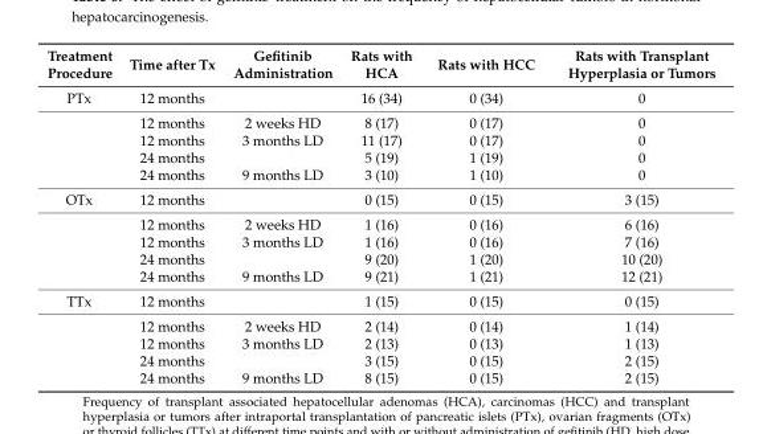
<table><thead><tr><td>Treatment Procedure</td><td>Time after Tx</td><td>Gefitinib Administration</td><td>Rats with HCA</td><td>Rats with HCC</td><td>Rats with Transplant Hyperplasia or Tumors</td></tr></thead><tbody><tr><td rowspan="5">PTx</td><td>12 months</td><td></td><td>16 (34)</td><td>0 (34)</td><td>0</td></tr><tr><td>12 months</td><td>2 weeks HD</td><td>8 (17)</td><td>0 (17)</td><td>0</td></tr><tr><td>12 months</td><td>3 months LD</td><td>11 (17)</td><td>0 (17)</td><td>0</td></tr><tr><td>24 months</td><td></td><td>5 (19)</td><td>1 (19)</td><td>0</td></tr><tr><td>24 months</td><td>9 months LD</td><td>3 (10)</td><td>1 (10)</td><td>0</td></tr><tr><td rowspan="5">OTx</td><td>12 months</td><td></td><td>0 (15)</td><td>0 (15)</td><td>3 (15)</td></tr><tr><td>12 months</td><td>2 weeks HD</td><td>1 (16)</td><td>0 (16)</td><td>6 (16)</td></tr><tr><td>12 months</td><td>3 months LD</td><td>1 (16)</td><td>0 (16)</td><td>7 (16)</td></tr><tr><td>24 months</td><td></td><td>9 (20)</td><td>1 (20)</td><td>10 (20)</td></tr><tr><td>24 months</td><td>9 months LD</td><td>9 (21)</td><td>1 (21)</td><td>12 (21)</td></tr><tr><td rowspan="5">TTx</td><td>12 months</td><td></td><td>1 (15)</td><td>0 (15)</td><td>0 (15)</td></tr><tr><td>12 months</td><td>2 weeks HD</td><td>2 (14)</td><td>0 (14)</td><td>1 (14)</td></tr><tr><td>12 months</td><td>3 months LD</td><td>2 (13)</td><td>0 (13)</td><td>1 (13)</td></tr><tr><td>24 months</td><td></td><td>3 (15)</td><td>0 (15)</td><td>2 (15)</td></tr><tr><td>24 months</td><td>9 months LD</td><td>8 (15)</td><td>0 (15)</td><td>2 (15)</td></tr></tbody></table>